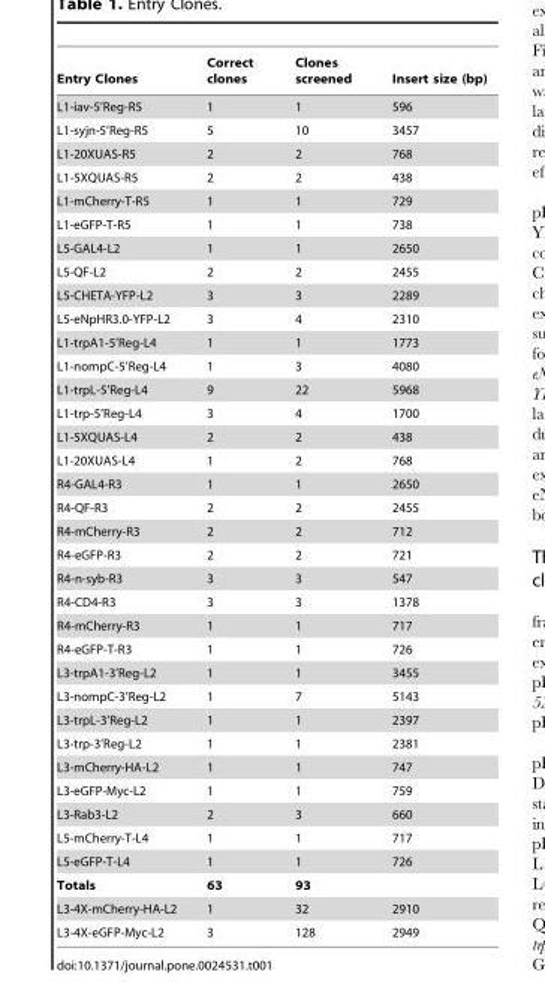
<table><thead><tr><td>Entry Clones</td><td>Correct clones</td><td>Clones screened</td><td>Insert size (bp)</td></tr></thead><tbody><tr><td>L1-iav-5’Reg-R5</td><td>1</td><td>1</td><td>596</td></tr><tr><td>L1-syjn-5’Reg-R5</td><td>5</td><td>10</td><td>3457</td></tr><tr><td>L1-20XUAS-R5</td><td>2</td><td>2</td><td>768</td></tr><tr><td>L1-5XQUAS-R5</td><td>2</td><td>2</td><td>438</td></tr><tr><td>L1-mCherry-T-R5</td><td>1</td><td>1</td><td>729</td></tr><tr><td>L1-eGFP-T-R5</td><td>1</td><td>1</td><td>738</td></tr><tr><td>L5-GAL4-L2</td><td>1</td><td>1</td><td>2650</td></tr><tr><td>L5-QF-L2</td><td>2</td><td>2</td><td>2455</td></tr><tr><td>L5-CHETA-YFP-L2</td><td>3</td><td>3</td><td>2289</td></tr><tr><td>L5-eNpHR3.0-YFP-L2</td><td>3</td><td>4</td><td>2310</td></tr><tr><td>L1-trpA1-5’Reg-L4</td><td>1</td><td>1</td><td>1773</td></tr><tr><td>L1-nompC-5’Reg-L4</td><td>1</td><td>3</td><td>4080</td></tr><tr><td>L1-trpL-5’Reg-L4</td><td>9</td><td>22</td><td>5968</td></tr><tr><td>L1-trp-5’Reg-L4</td><td>3</td><td>4</td><td>1700</td></tr><tr><td>L1-5XQUAS-L4</td><td>2</td><td>2</td><td>438</td></tr><tr><td>L1-20XUAS-L4</td><td>1</td><td>2</td><td>768</td></tr><tr><td>R4-GAL4-R3</td><td>1</td><td>1</td><td>2650</td></tr><tr><td>R4-QF-R3</td><td>2</td><td>2</td><td>2455</td></tr><tr><td>R4-mCherry-R3</td><td>2</td><td>2</td><td>712</td></tr><tr><td>R4-eGFP-R3</td><td>2</td><td>2</td><td>721</td></tr><tr><td>R4-n-syb-R3</td><td>3</td><td>3</td><td>547</td></tr><tr><td>R4-CD4-R3</td><td>3</td><td>3</td><td>1378</td></tr><tr><td>R4-mCherry-R3</td><td>1</td><td>1</td><td>717</td></tr><tr><td>R4-eGFP-T-R3</td><td>1</td><td>1</td><td>726</td></tr><tr><td>L3-trpA1-3’Reg-L2</td><td>1</td><td>1</td><td>3455</td></tr><tr><td>L3-nompC-3’Reg-L2</td><td>1</td><td>7</td><td>5143</td></tr><tr><td>L3-trpL-3’Reg-L2</td><td>1</td><td>1</td><td>2397</td></tr><tr><td>L3-trp-3’Reg-L2</td><td>1</td><td>1</td><td>2381</td></tr><tr><td>L3-mCherry-HA-L2</td><td>1</td><td>1</td><td>747</td></tr><tr><td>L3-eGFP-Myc-L2</td><td>1</td><td>1</td><td>759</td></tr><tr><td>L3-Rab3-L2</td><td>2</td><td>3</td><td>660</td></tr><tr><td>L5-mCherry-T-L4</td><td>1</td><td>1</td><td>717</td></tr><tr><td>L5-eGFP-T-L4</td><td>1</td><td>1</td><td>726</td></tr><tr><td>Totals</td><td>63</td><td>93</td><td></td></tr><tr><td>L3-4X-mCherry-HA-L2</td><td>1</td><td>32</td><td>2910</td></tr><tr><td>L3-4X-eGFP-Myc-L2</td><td>3</td><td>128</td><td>2949</td></tr></tbody></table>